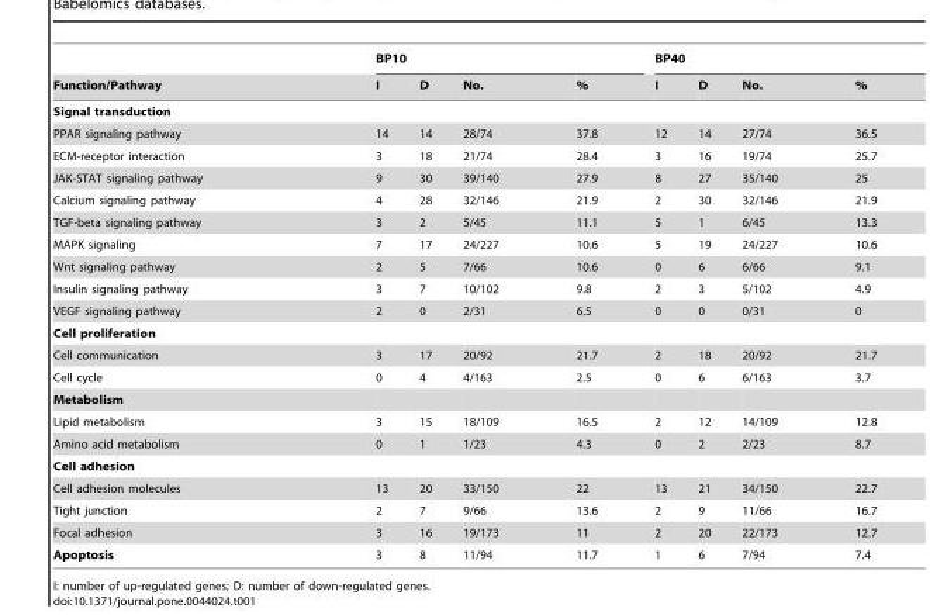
<table><thead><tr><td rowspan="2">Function/Pathway</td><td colspan="4">BP10</td><td colspan="4">BP40</td></tr><tr><td>I</td><td>D</td><td>No.</td><td>%</td><td>I</td><td>D</td><td>No.</td><td>%</td></tr></thead><tbody><tr><td colspan="9">Signal transduction</td></tr><tr><td>PPAR signaling pathway</td><td>14</td><td>14</td><td>28/74</td><td>37.8</td><td>12</td><td>14</td><td>27/74</td><td>36.5</td></tr><tr><td>ECM-receptor interaction</td><td>3</td><td>18</td><td>21/74</td><td>28.4</td><td>3</td><td>16</td><td>19/74</td><td>25.7</td></tr><tr><td>JAK-STAT signaling pathway</td><td>9</td><td>30</td><td>39/140</td><td>27.9</td><td>8</td><td>27</td><td>35/140</td><td>25</td></tr><tr><td>Calcium signaling pathway</td><td>4</td><td>28</td><td>32/146</td><td>21.9</td><td>2</td><td>30</td><td>32/146</td><td>21.9</td></tr><tr><td>TGF-beta signaling pathway</td><td>3</td><td>2</td><td>5/45</td><td>11.1</td><td>5</td><td>1</td><td>6/45</td><td>13.3</td></tr><tr><td>MAPK signaling</td><td>7</td><td>17</td><td>24/227</td><td>10.6</td><td>5</td><td>19</td><td>24/227</td><td>10.6</td></tr><tr><td>Wnt signaling pathway</td><td>2</td><td>5</td><td>7/66</td><td>10.6</td><td>0</td><td>6</td><td>6/66</td><td>9.1</td></tr><tr><td>Insulin signaling pathway</td><td>3</td><td>7</td><td>10/102</td><td>9.8</td><td>2</td><td>3</td><td>5/102</td><td>4.9</td></tr><tr><td>VEGF signaling pathway</td><td>2</td><td>0</td><td>2/31</td><td>6.5</td><td>0</td><td>0</td><td>0/31</td><td>0</td></tr><tr><td colspan="9">Cell proliferation</td></tr><tr><td>Cell communication</td><td>3</td><td>17</td><td>20/92</td><td>21.7</td><td>2</td><td>18</td><td>20/92</td><td>21.7</td></tr><tr><td>Cell cycle</td><td>0</td><td>4</td><td>4/163</td><td>2.5</td><td>0</td><td>6</td><td>6/163</td><td>3.7</td></tr><tr><td colspan="9">Metabolism</td></tr><tr><td>Lipid metabolism</td><td>3</td><td>15</td><td>18/109</td><td>16.5</td><td>2</td><td>12</td><td>14/109</td><td>12.8</td></tr><tr><td>Amino acid metabolism</td><td>0</td><td>1</td><td>1/23</td><td>4.3</td><td>0</td><td>2</td><td>2/23</td><td>8.7</td></tr><tr><td colspan="9">Cell adhesion</td></tr><tr><td>Cell adhesion molecules</td><td>13</td><td>20</td><td>33/150</td><td>22</td><td>13</td><td>21</td><td>34/150</td><td>22.7</td></tr><tr><td>Tight junction</td><td>2</td><td>7</td><td>9/66</td><td>13.6</td><td>2</td><td>9</td><td>11/66</td><td>16.7</td></tr><tr><td>Focal adhesion</td><td>3</td><td>16</td><td>19/173</td><td>11</td><td>2</td><td>20</td><td>22/173</td><td>12.7</td></tr><tr><td>Apoptosis</td><td>3</td><td>8</td><td>11/94</td><td>11.7</td><td>1</td><td>6</td><td>7/94</td><td>7.4</td></tr></tbody></table>